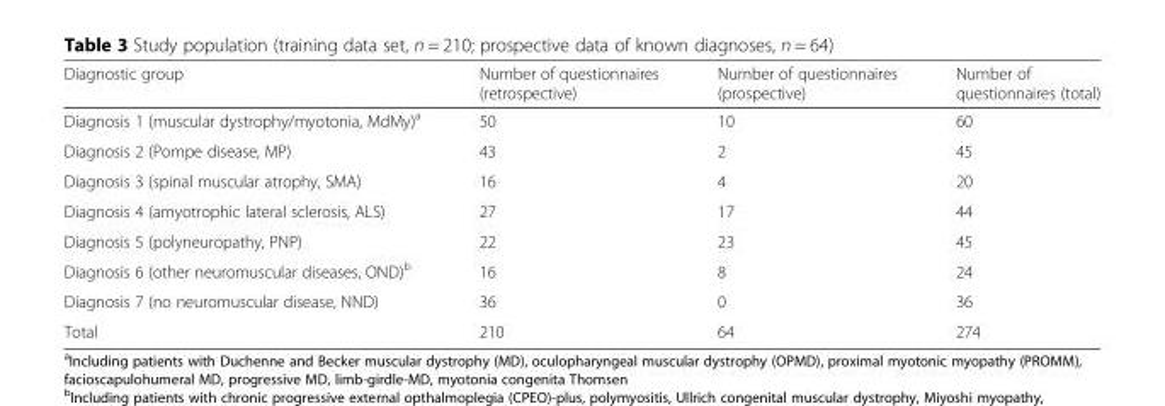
<table><thead><tr><td>Diagnostic group</td><td>Number of questionnaires (retrospective)</td><td>Number of questionnaires (prospective)</td><td>Number of questionnaires (total)</td></tr></thead><tbody><tr><td>Diagnosis 1 (muscular dystrophy/myotonia, MdMy)<sup>a</sup></td><td>50</td><td>10</td><td>60</td></tr><tr><td>Diagnosis 2 (Pompe disease, MP)</td><td>43</td><td>2</td><td>45</td></tr><tr><td>Diagnosis 3 (spinal muscular atrophy, SMA)</td><td>16</td><td>4</td><td>20</td></tr><tr><td>Diagnosis 4 (amyotrophic lateral sclerosis, ALS)</td><td>27</td><td>17</td><td>44</td></tr><tr><td>Diagnosis 5 (polyneuropathy, PNP)</td><td>22</td><td>23</td><td>45</td></tr><tr><td>Diagnosis 6 (other neuromuscular diseases, OND)<sup>b</sup></td><td>16</td><td>8</td><td>24</td></tr><tr><td>Diagnosis 7 (no neuromuscular disease, NND)</td><td>36</td><td>0</td><td>36</td></tr><tr><td>Total</td><td>210</td><td>64</td><td>274</td></tr></tbody></table>